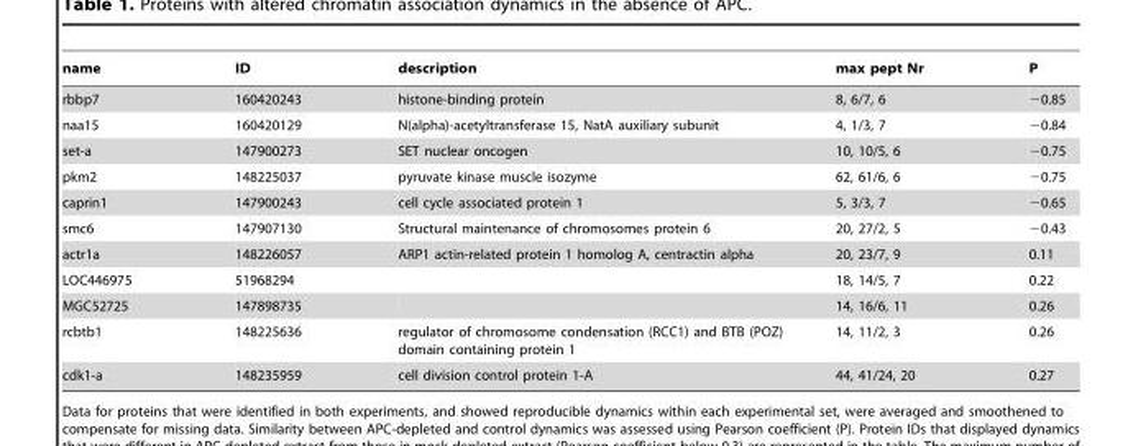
<table><thead><tr><td>name</td><td>ID</td><td>description</td><td>max pept Nr</td><td>P</td></tr></thead><tbody><tr><td>rbbp7</td><td>160420243</td><td>histone-binding protein</td><td>8, 6/7, 6</td><td>−0.85</td></tr><tr><td>naa15</td><td>160420129</td><td>N(alpha)-acetyltransferase 15, NatA auxiliary subunit</td><td>4, 1/3, 7</td><td>−0.84</td></tr><tr><td>set-a</td><td>147900273</td><td>SET nuclear oncogen</td><td>10, 10/5, 6</td><td>−0.75</td></tr><tr><td>pkm2</td><td>148225037</td><td>pyruvate kinase muscle isozyme</td><td>62, 61/6, 6</td><td>−0.75</td></tr><tr><td>caprin1</td><td>147900243</td><td>cell cycle associated protein 1</td><td>5, 3/3, 7</td><td>−0.65</td></tr><tr><td>smc6</td><td>147907130</td><td>Structural maintenance of chromosomes protein 6</td><td>20, 27/2, 5</td><td>−0.43</td></tr><tr><td>actr1a</td><td>148226057</td><td>ARP1 actin-related protein 1 homolog A, centractin alpha</td><td>20, 23/7, 9</td><td>0.11</td></tr><tr><td>LOC446975</td><td>51968294</td><td></td><td>18, 14/5, 7</td><td>0.22</td></tr><tr><td>MGC52725</td><td>147898735</td><td></td><td>14, 16/6, 11</td><td>0.26</td></tr><tr><td>rcbtb1</td><td>148225636</td><td>regulator of chromosome condensation (RCC1) and BTB (POZ) domain containing protein 1</td><td>14, 11/2, 3</td><td>0.26</td></tr><tr><td>cdk1-a</td><td>148235959</td><td>cell division control protein 1-A</td><td>44, 41/24, 20</td><td>0.27</td></tr></tbody></table>